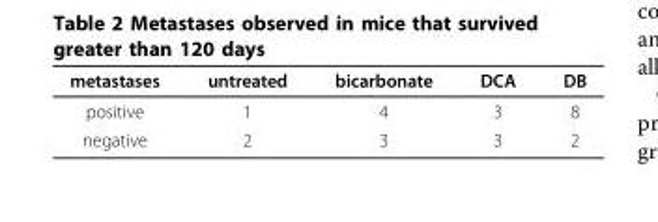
<table><thead><tr><td>metastases</td><td>untreated</td><td>bicarbonate</td><td>DCA</td><td>DB</td></tr></thead><tbody><tr><td>positive</td><td>1</td><td>4</td><td>3</td><td>8</td></tr><tr><td>negative</td><td>2</td><td>3</td><td>3</td><td>2</td></tr></tbody></table>